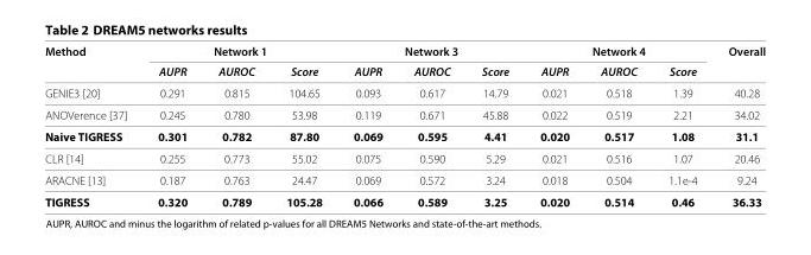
<table><thead><tr><td rowspan="2">Method</td><td colspan="3">Network 1</td><td colspan="3">Network 3</td><td colspan="3">Network 4</td><td rowspan="2">Overall</td></tr><tr><td>AUPR</td><td>AUROC</td><td>Score</td><td>AUPR</td><td>AUROC</td><td>Score</td><td>AUPR</td><td>AUROC</td><td>Score</td></tr></thead><tbody><tr><td>GENIE3 [20]</td><td>0.291</td><td>0.815</td><td>104.65</td><td>0.093</td><td>0.617</td><td>14.79</td><td>0.021</td><td>0.518</td><td>1.39</td><td>40.28</td></tr><tr><td>ANOVerence [37]</td><td>0.245</td><td>0.780</td><td>53.98</td><td>0.119</td><td>0.671</td><td>45.88</td><td>0.022</td><td>0.519</td><td>2.21</td><td>34.02</td></tr><tr><td>Naive TIGRESS</td><td>0.301</td><td>0.782</td><td>87.80</td><td>0.069</td><td>0.595</td><td>4.41</td><td>0.020</td><td>0.517</td><td>1.08</td><td>31.1</td></tr><tr><td>CLR [14]</td><td>0.255</td><td>0.773</td><td>55.02</td><td>0.075</td><td>0.590</td><td>5.29</td><td>0.021</td><td>0.516</td><td>1.07</td><td>20.46</td></tr><tr><td>ARACNE [13]</td><td>0.187</td><td>0.763</td><td>24.47</td><td>0.069</td><td>0.572</td><td>3.24</td><td>0.018</td><td>0.504</td><td>1.1e-4</td><td>9.24</td></tr><tr><td>TIGRESS</td><td>0.320</td><td>0.789</td><td>105.28</td><td>0.066</td><td>0.589</td><td>3.25</td><td>0.020</td><td>0.514</td><td>0.46</td><td>36.33</td></tr></tbody></table>